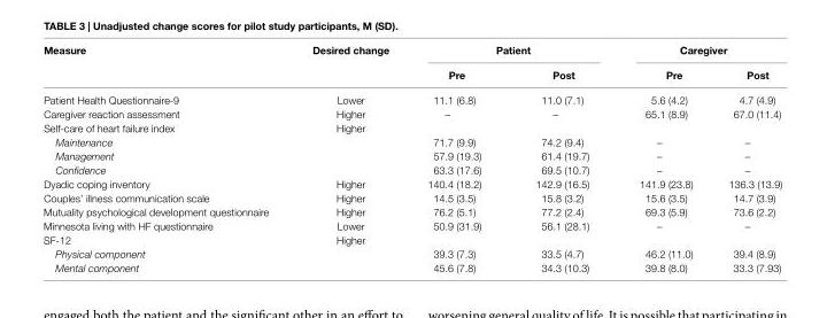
<table><thead><tr><td rowspan="2">Measure</td><td rowspan="2">Desired change</td><td colspan="2">Patient</td><td colspan="2">caregiver</td></tr><tr><td>Pre</td><td>Post</td><td>Pre</td><td>Post</td></tr></thead><tbody><tr><td>Patient Health Questionnaire-9</td><td>Lower</td><td>11.1 (6.8)</td><td>11.0 (7.1)</td><td>5.6 (4.2)</td><td>4.7 (4.9)</td></tr><tr><td>Caregiver reaction assessment</td><td>Higher</td><td>–</td><td>–</td><td>65.1 (8.9)</td><td>67.0 (11.4)</td></tr><tr><td>Self-care of heart failure index</td><td>Higher</td><td></td><td></td><td></td><td></td></tr><tr><td>Maintenance</td><td></td><td>71.7 (9.9)</td><td>74.2 (9.4)</td><td>–</td><td>–</td></tr><tr><td>Management</td><td></td><td>57.9 (19.3)</td><td>61.4 (19.7)</td><td>–</td><td>–</td></tr><tr><td>Confidence</td><td></td><td>63.3 (17.6)</td><td>69.5 (10.7)</td><td>–</td><td>–</td></tr><tr><td>Dyadic coping inventory</td><td>Higher</td><td>140.4 (18.2)</td><td>142.9 (16.5)</td><td>141.9 (23.8)</td><td>136.3 (13.9)</td></tr><tr><td>Couples’ illness communication scale</td><td>Higher</td><td>14.5 (3.5)</td><td>15.8 (3.2)</td><td>15.6 (3.5)</td><td>14.7 (3.9)</td></tr><tr><td>Mutuality psychological development questionnaire</td><td>Higher</td><td>76.2 (5.1)</td><td>77.2 (2.4)</td><td>69.3 (5.9)</td><td>73.6 (2.2)</td></tr><tr><td>Minnesota living with HF questionnaire</td><td>Lower</td><td>50.9 (31.9)</td><td>56.1 (28.1)</td><td>–</td><td>–</td></tr><tr><td>SF-12</td><td>Higher</td><td></td><td></td><td></td><td></td></tr><tr><td>Physical component</td><td></td><td>39.3 (7.3)</td><td>33.5 (4.7)</td><td>46.2 (11.0)</td><td>39.4 (8.9)</td></tr><tr><td>Mental component</td><td></td><td>45.6 (7.8)</td><td>34.3 (10.3)</td><td>39.8 (8.0)</td><td>33.3 (7.93)</td></tr></tbody></table>